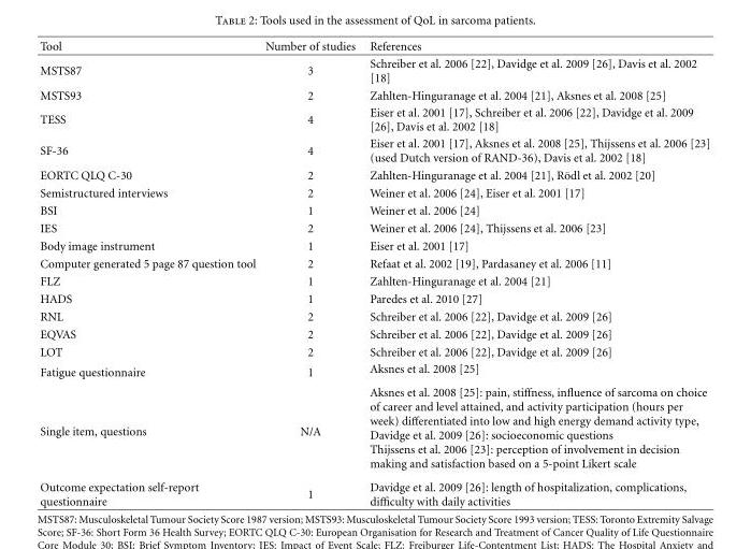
<table><thead><tr><td>Tool</td><td>Number of studies</td><td>References</td></tr></thead><tbody><tr><td>MSTS87</td><td>3</td><td>Schreiber et al. 2006 [22], Davidge et al. 2009 [26], Davis et al. 2002 [18]</td></tr><tr><td>MSTS93</td><td>2</td><td>Zahlten-Hinguranage et al. 2004 [21], Aksnes et al. 2008 [25]</td></tr><tr><td>TESS</td><td>4</td><td>Eiser et al. 2001 [17], Schreiber et al. 2006 [22], Davidge et al. 2009 [26], Davis et al. 2002 [18]</td></tr><tr><td>SF-36</td><td>4</td><td>Eiser et al. 2001 [17], Aksnes et al. 2008 [25], Thijssens et al. 2006 [23] (used Dutch version of RAND-36), Davis et al. 2002 [18]</td></tr><tr><td>EORTC QLQ C-30</td><td>2</td><td>Zahlten-Hinguranage et al. 2004 [21], R¨odl et al. 2002 [20]</td></tr><tr><td>Semistructured interviews</td><td>2</td><td>Weiner et al. 2006 [24], Eiser et al. 2001 [17]</td></tr><tr><td>BSI</td><td>1</td><td>Weiner et al. 2006 [24]</td></tr><tr><td>IES</td><td>2</td><td>Weiner et al. 2006 [24], Thijssens et al. 2006 [23]</td></tr><tr><td>Body image instrument</td><td>1</td><td>Eiser et al. 2001 [17]</td></tr><tr><td>Computer generated 5 page 87 question tool</td><td>2</td><td>Refaat et al. 2002 [19], Pardasaney et al. 2006 [11]</td></tr><tr><td>FLZ</td><td>1</td><td>Zahlten-Hinguranage et al. 2004 [21]</td></tr><tr><td>HADS</td><td>1</td><td>Paredes et al. 2010 [27]</td></tr><tr><td>RNL</td><td>2</td><td>Schreiber et al. 2006 [22], Davidge et al. 2009 [26]</td></tr><tr><td>EQVAS</td><td>2</td><td>Schreiber et al. 2006 [22], Davidge et al. 2009 [26]</td></tr><tr><td>LOT</td><td>2</td><td>Schreiber et al. 2006 [22], Davidge et al. 2009 [26]</td></tr><tr><td>Fatigue questionnaire</td><td>1</td><td>Aksnes et al. 2008 [25]</td></tr><tr><td>Single item, questions</td><td>N/A</td><td>Aksnes et al. 2008 [25]: pain, stiffness, influence of sarcoma on choice of career and level attained, and activity participation (hours per week) differentiated into low and high energy demand activity type, Davidge et al. 2009 [26]: socioeconomic questions Thijssens et al. 2006 [23]: perception of involvement in decision making and satisfaction based on a 5-point Likert scale</td></tr><tr><td>Outcome expectation self-report questionnaire</td><td>1</td><td>Davidge et al. 2009 [26]: length of hospitalization, complications, difficulty with daily activities</td></tr></tbody></table>